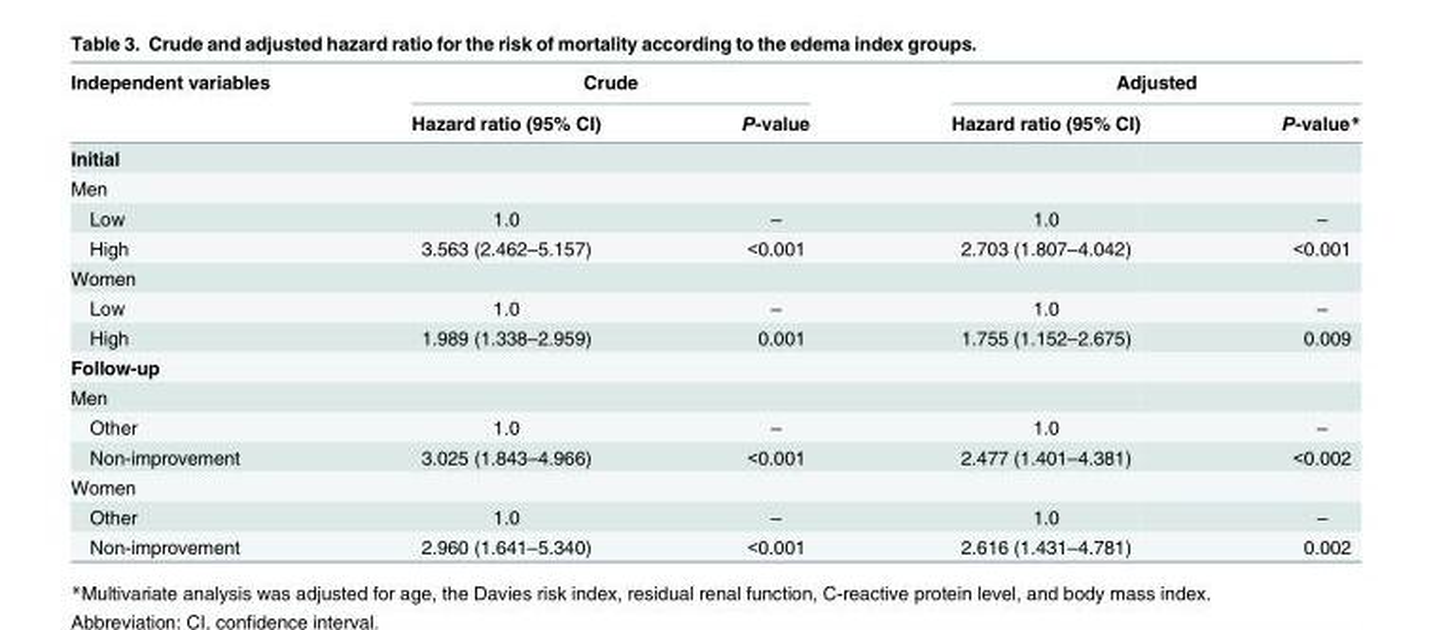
<table><thead><tr><td rowspan="2">Independent variables</td><td colspan="2">Crude</td><td colspan="2">Adjusted</td></tr><tr><td>Hazard ratio (95% CI)</td><td>P-value</td><td>Hazard ratio (95% CI)</td><td>P-value*</td></tr></thead><tbody><tr><td colspan="5">Initial</td></tr><tr><td colspan="5">Men</td></tr><tr><td>Low</td><td>1.0</td><td>–</td><td>1.0</td><td>–</td></tr><tr><td>High</td><td>3.563 (2.462–5.157)</td><td>&lt;0.001</td><td>2.703 (1.807–4.042)</td><td>&lt;0.001</td></tr><tr><td colspan="5">Women</td></tr><tr><td>Low</td><td>1.0</td><td>–</td><td>1.0</td><td>–</td></tr><tr><td>High</td><td>1.989 (1.338–2.959)</td><td>0.001</td><td>1.755 (1.152–2.675)</td><td>0.009</td></tr><tr><td colspan="5">Follow-up</td></tr><tr><td colspan="5">Men</td></tr><tr><td>Other</td><td>1.0</td><td>–</td><td>1.0</td><td>–</td></tr><tr><td>Non-improvement</td><td>3.025 (1.843–4.966)</td><td>&lt;0.001</td><td>2.477 (1.401–4.381)</td><td>&lt;0.002</td></tr><tr><td colspan="5">Women</td></tr><tr><td>Other</td><td>1.0</td><td>–</td><td>1.0</td><td>–</td></tr><tr><td>Non-improvement</td><td>2.960 (1.641–5.340)</td><td>&lt;0.001</td><td>2.616 (1.431–4.781)</td><td>0.002</td></tr></tbody></table>